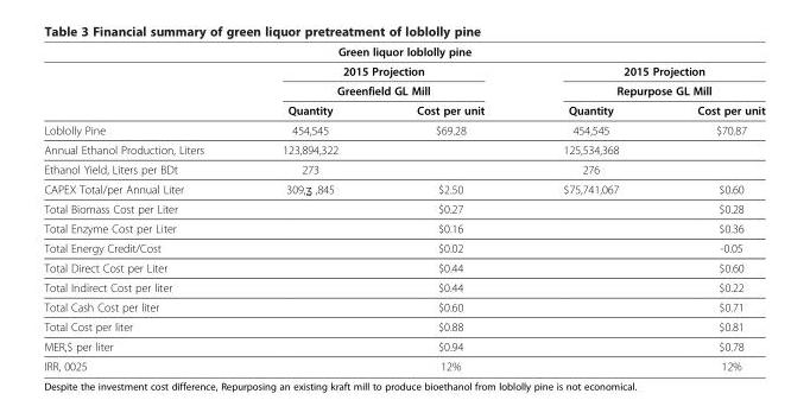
<table><thead><tr><td colspan="5">Green liquor loblolly pine</td></tr><tr><td rowspan="3"></td><td rowspan="2" colspan="2">2015 Projection Greenfield GL Mill</td><td rowspan="2" colspan="2">2015 Projection Repurpose GL Mill</td></tr><tr></tr><tr><td>Quantity</td><td>Cost per unit</td><td>Quantity</td><td>Cost per unit</td></tr></thead><tbody><tr><td>Loblolly Pine</td><td>454,545</td><td>$69.28</td><td>454,545</td><td>$70.87</td></tr><tr><td>Annual Ethanol Production, Liters</td><td>123,894,322</td><td></td><td>125,534,368</td><td></td></tr><tr><td>Ethanol Yield, Liters per BDt</td><td>273</td><td></td><td>276</td><td></td></tr><tr><td>CAPEX Total/per Annual Liter</td><td>309,ʓ ,845</td><td>$2.50</td><td>$75,741,067</td><td>$0.60</td></tr><tr><td>Total Biomass Cost per Liter</td><td></td><td>$0.27</td><td></td><td>$0.28</td></tr><tr><td>Total Enzyme Cost per Liter</td><td></td><td>$0.16</td><td></td><td>$0.36</td></tr><tr><td>Total Energy Credit/Cost</td><td></td><td>$0.02</td><td></td><td>-0.05</td></tr><tr><td>Total Direct Cost per Liter</td><td></td><td>$0.44</td><td></td><td>$0.60</td></tr><tr><td>Total Indirect Cost per liter</td><td></td><td>$0.44</td><td></td><td>$0.22</td></tr><tr><td>Total Cash Cost per liter</td><td></td><td>$0.60</td><td></td><td>$0.71</td></tr><tr><td>Total Cost per liter</td><td></td><td>$0.88</td><td></td><td>$0.81</td></tr><tr><td>MER,$ per liter</td><td></td><td>$0.94</td><td></td><td>$0.78</td></tr><tr><td>IRR, 0025</td><td></td><td>12%</td><td></td><td>12%</td></tr></tbody></table>